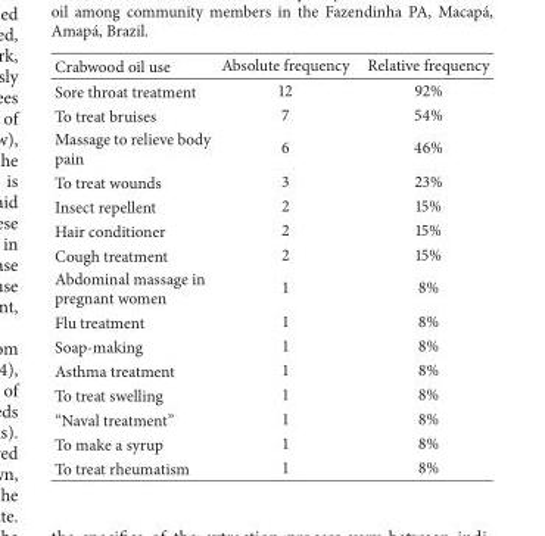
<table><thead><tr><td>Crabwood oil use</td><td>Absolute frequency</td><td>Relative frequency</td></tr></thead><tbody><tr><td>Sore throat treatment</td><td>12</td><td>92%</td></tr><tr><td>To treat bruises</td><td>7</td><td>54%</td></tr><tr><td>Massage to relieve body pain</td><td>6</td><td>46%</td></tr><tr><td>To treat wounds</td><td>3</td><td>23%</td></tr><tr><td>Insect repellent</td><td>2</td><td>15%</td></tr><tr><td>Hair conditioner</td><td>2</td><td>15%</td></tr><tr><td>Cough treatment</td><td>2</td><td>15%</td></tr><tr><td>Abdominal massage in pregnant women</td><td>1</td><td>8%</td></tr><tr><td>Flu treatment</td><td>1</td><td>8%</td></tr><tr><td>Soap-making</td><td>1</td><td>8%</td></tr><tr><td>Asthma treatment</td><td>1</td><td>8%</td></tr><tr><td>To treat swelling</td><td>1</td><td>8%</td></tr><tr><td>“Naval treatment”</td><td>1</td><td>8%</td></tr><tr><td>To make a syrup</td><td>1</td><td>8%</td></tr><tr><td>To treat rheumatism</td><td>1</td><td>8%</td></tr></tbody></table>